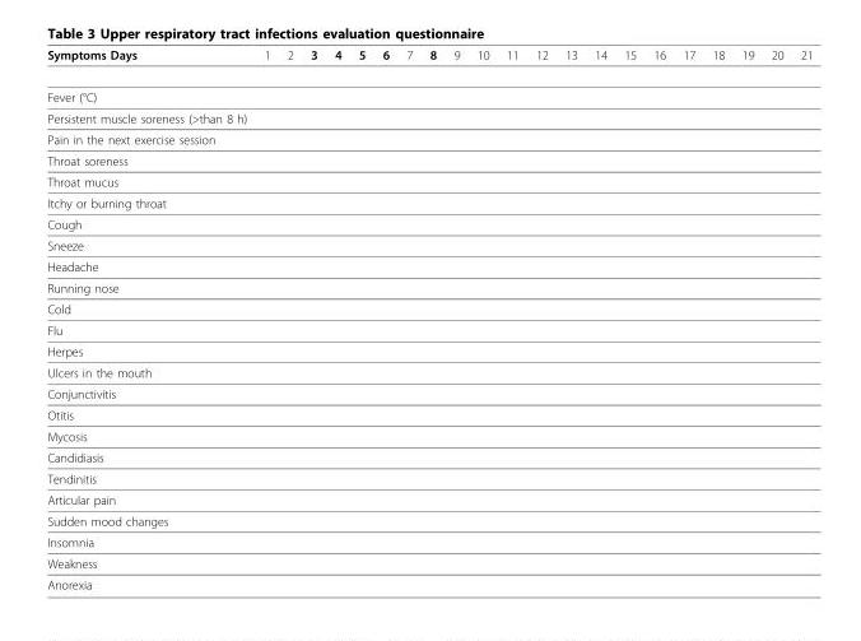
<table><thead><tr><td>Symptoms Days</td><td>1</td><td>2</td><td>3</td><td>4</td><td>5</td><td>6</td><td>7</td><td>8</td><td>9</td><td>10</td><td>11</td><td>12</td><td>13</td><td>14</td><td>15</td><td>16</td><td>17</td><td>18</td><td>19</td><td>20</td><td>21</td></tr></thead><tbody><tr><td colspan="22">Fever (°C)</td></tr><tr><td colspan="22">Persistent muscle soreness (&gt;than 8 h)</td></tr><tr><td colspan="22">Pain in the next exercise session</td></tr><tr><td colspan="22">Throat soreness</td></tr><tr><td colspan="22">Throat mucus</td></tr><tr><td colspan="22">Itchy or burning throat</td></tr><tr><td colspan="22">Cough</td></tr><tr><td colspan="22">Sneeze</td></tr><tr><td colspan="22">Headache</td></tr><tr><td colspan="22">Running nose</td></tr><tr><td colspan="22">Cold</td></tr><tr><td colspan="22">Flu</td></tr><tr><td colspan="22">Herpes</td></tr><tr><td colspan="22">Ulcers in the mouth</td></tr><tr><td colspan="22">Conjunctivitis</td></tr><tr><td colspan="22">Otitis</td></tr><tr><td colspan="22">Mycosis</td></tr><tr><td colspan="22">Candidiasis</td></tr><tr><td colspan="22">Tendinitis</td></tr><tr><td colspan="22">Articular pain</td></tr><tr><td colspan="22">Sudden mood changes</td></tr><tr><td colspan="22">Insomnia</td></tr><tr><td colspan="22">Weakness</td></tr><tr><td>Anorexia</td><td></td><td></td><td></td><td></td><td></td><td></td><td></td><td></td><td></td><td></td><td></td><td></td><td></td><td></td><td></td><td></td><td></td><td></td><td></td><td></td><td></td></tr></tbody></table>